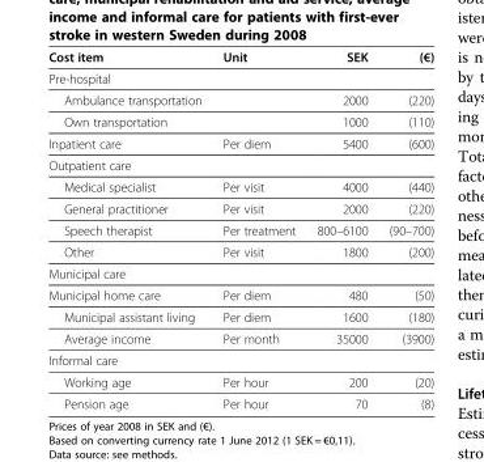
<table><thead><tr><td>Cost item</td><td>Unit</td><td>SEK</td><td>(€)</td></tr></thead><tbody><tr><td colspan="4">Pre-hospital</td></tr><tr><td>Ambulance transportation</td><td></td><td>2000</td><td>(220)</td></tr><tr><td>Own transportation</td><td></td><td>1000</td><td>(110)</td></tr><tr><td>Inpatient care</td><td>Per diem</td><td>5400</td><td>(600)</td></tr><tr><td colspan="4">Outpatient care</td></tr><tr><td>Medical specialist</td><td>Per visit</td><td>4000</td><td>(440)</td></tr><tr><td>General practitioner</td><td>Per visit</td><td>2000</td><td>(220)</td></tr><tr><td>Speech therapist</td><td>Per treatment</td><td>800–6100</td><td>(90–700)</td></tr><tr><td>Other</td><td>Per visit</td><td>1800</td><td>(200)</td></tr><tr><td colspan="4">Municipal care</td></tr><tr><td>Municipal home care</td><td>Per diem</td><td>480</td><td>(50)</td></tr><tr><td>Municipal assistant living</td><td>Per diem</td><td>1600</td><td>(180)</td></tr><tr><td>Average income</td><td>Per month</td><td>35000</td><td>(3900)</td></tr><tr><td colspan="4">Informal care</td></tr><tr><td>Working age</td><td>Per hour</td><td>200</td><td>(20)</td></tr><tr><td>Pension age</td><td>Per hour</td><td>70</td><td>(8)</td></tr></tbody></table>